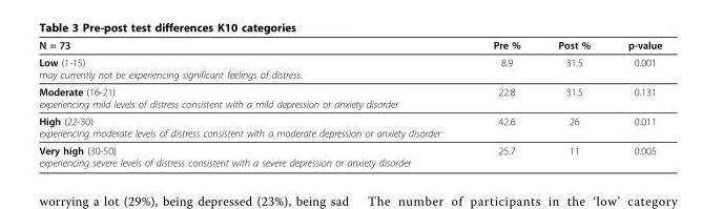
<table><thead><tr><td>N = 73</td><td>Pre %</td><td>Post %</td><td>p-value</td></tr></thead><tbody><tr><td>Low (1-15) may currently not be experiencing significant feelings of distress.</td><td>8.9</td><td>31.5</td><td>0.001</td></tr><tr><td>Moderate (16-21) experiencing mild levels of distress consistent with a mild depression or anxiety disorder</td><td>22.8</td><td>31.5</td><td>0.131</td></tr><tr><td>High (22-30) experiencing moderate levels of distress consistent with a moderate depression or anxiety disorder</td><td>42.6</td><td>26</td><td>0.011</td></tr><tr><td>Very high (30-50) experiencing severe levels of distress consistent with a severe depression or anxiety disorder</td><td>25.7</td><td>11</td><td>0.005</td></tr></tbody></table>